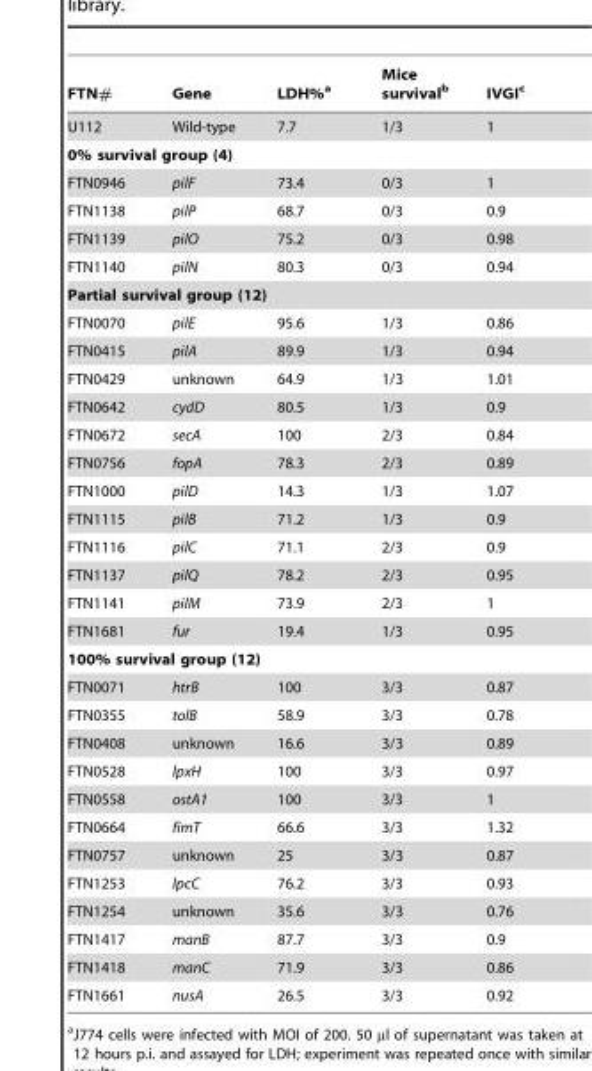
<table><thead><tr><td>FTN#</td><td>Gene</td><td>LDH%<sup>a</sup></td><td>Mice survival<sup>b</sup></td><td>IVGI<sup>c</sup></td></tr></thead><tbody><tr><td>U112</td><td>Wild-type</td><td>7.7</td><td>1/3</td><td>1</td></tr><tr><td colspan="5">0% survival group (4)</td></tr><tr><td>FTN0946</td><td>pilF</td><td>73.4</td><td>0/3</td><td>1</td></tr><tr><td>FTN1138</td><td>pilP</td><td>68.7</td><td>0/3</td><td>0.9</td></tr><tr><td>FTN1139</td><td>pilO</td><td>75.2</td><td>0/3</td><td>0.98</td></tr><tr><td>FTN1140</td><td>pilN</td><td>80.3</td><td>0/3</td><td>0.94</td></tr><tr><td colspan="5">Partial survival group (12)</td></tr><tr><td>FTN0070</td><td>pilE</td><td>95.6</td><td>1/3</td><td>0.86</td></tr><tr><td>FTN0415</td><td>pilA</td><td>89.9</td><td>1/3</td><td>0.94</td></tr><tr><td>FTN0429</td><td>unknown</td><td>64.9</td><td>1/3</td><td>1.01</td></tr><tr><td>FTN0642</td><td>cydD</td><td>80.5</td><td>1/3</td><td>0.9</td></tr><tr><td>FTN0672</td><td>secA</td><td>100</td><td>2/3</td><td>0.84</td></tr><tr><td>FTN0756</td><td>fopA</td><td>78.3</td><td>2/3</td><td>0.89</td></tr><tr><td>FTN1000</td><td>pilD</td><td>14.3</td><td>1/3</td><td>1.07</td></tr><tr><td>FTN1115</td><td>pilB</td><td>71.2</td><td>1/3</td><td>0.9</td></tr><tr><td>FTN1116</td><td>pilC</td><td>71.1</td><td>2/3</td><td>0.9</td></tr><tr><td>FTN1137</td><td>pilQ</td><td>78.2</td><td>2/3</td><td>0.95</td></tr><tr><td>FTN1141</td><td>pilM</td><td>73.9</td><td>2/3</td><td>1</td></tr><tr><td>FTN1681</td><td>fur</td><td>19.4</td><td>1/3</td><td>0.95</td></tr><tr><td colspan="5">100% survival group (12)</td></tr><tr><td>FTN0071</td><td>htrB</td><td>100</td><td>3/3</td><td>0.87</td></tr><tr><td>FTN0355</td><td>tolB</td><td>58.9</td><td>3/3</td><td>0.78</td></tr><tr><td>FTN0408</td><td>unknown</td><td>16.6</td><td>3/3</td><td>0.89</td></tr><tr><td>FTN0528</td><td>lpxH</td><td>100</td><td>3/3</td><td>0.97</td></tr><tr><td>FTN0558</td><td>ostA1</td><td>100</td><td>3/3</td><td>1</td></tr><tr><td>FTN0664</td><td>fimT</td><td>66.6</td><td>3/3</td><td>1.32</td></tr><tr><td>FTN0757</td><td>unknown</td><td>25</td><td>3/3</td><td>0.87</td></tr><tr><td>FTN1253</td><td>lpcC</td><td>76.2</td><td>3/3</td><td>0.93</td></tr><tr><td>FTN1254</td><td>unknown</td><td>35.6</td><td>3/3</td><td>0.76</td></tr><tr><td>FTN1417</td><td>manB</td><td>87.7</td><td>3/3</td><td>0.9</td></tr><tr><td>FTN1418</td><td>manC</td><td>71.9</td><td>3/3</td><td>0.86</td></tr><tr><td>FTN1661</td><td>nusA</td><td>26.5</td><td>3/3</td><td>0.92</td></tr></tbody></table>